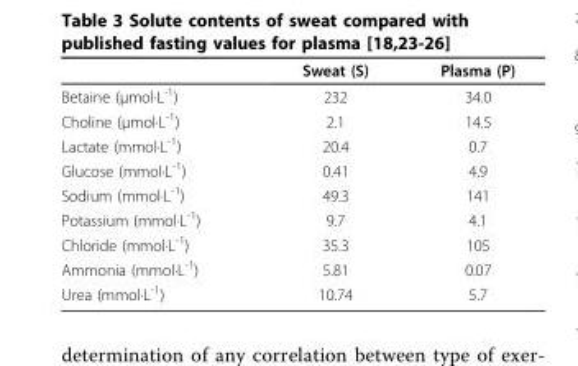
<table><thead><tr><td></td><td>Sweat (S)</td><td>Plasma (P)</td></tr></thead><tbody><tr><td>Betaine (μmol·L<sup>-1</sup>)</td><td>232</td><td>34.0</td></tr><tr><td>Choline (μmol·L<sup>-1</sup>)</td><td>2.1</td><td>14.5</td></tr><tr><td>Lactate (mmol·L<sup>-1</sup>)</td><td>20.4</td><td>0.7</td></tr><tr><td>Glucose (mmol·L<sup>-1</sup>)</td><td>0.41</td><td>4.9</td></tr><tr><td>Sodium (mmol·L<sup>-1</sup>)</td><td>49.3</td><td>141</td></tr><tr><td>Potassium (mmol·L<sup>-1</sup>)</td><td>9.7</td><td>4.1</td></tr><tr><td>Chloride (mmol·L<sup>-1</sup>)</td><td>35.3</td><td>105</td></tr><tr><td>Ammonia (mmol·L<sup>-1</sup>)</td><td>5.81</td><td>0.07</td></tr><tr><td>Urea (mmol·L<sup>-1</sup>)</td><td>10.74</td><td>5.7</td></tr></tbody></table>